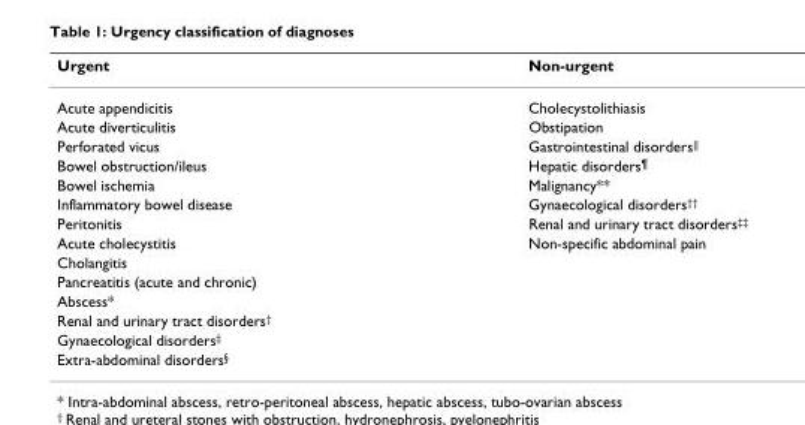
<table><thead><tr><td>Urgent</td><td>Non-urgent</td></tr></thead><tbody><tr><td>Acute appendicitis</td><td>Cholecystolithiasis</td></tr><tr><td>Acute diverticulitis</td><td>Obstipation</td></tr><tr><td>Perforated vicus</td><td>Gastrointestinal disorders||</td></tr><tr><td>Bowel obstruction/ileus</td><td>Hepatic disorders<sup>¶</sup></td></tr><tr><td>Bowel ischemia</td><td>Malignancy**</td></tr><tr><td>Inflammatory bowel disease</td><td>Gynaecological disorders<sup>††</sup></td></tr><tr><td>Peritonitis</td><td>Renal and urinary tract disorders<sup>‡‡</sup></td></tr><tr><td>Acute cholecystitis</td><td>Non-specific abdominal pain</td></tr><tr><td colspan="2">Cholangitis</td></tr><tr><td colspan="2">Pancreatitis (acute and chronic)</td></tr><tr><td colspan="2">Abscess*</td></tr><tr><td colspan="2">Renal and urinary tract disorders<sup>†</sup></td></tr><tr><td colspan="2">Gynaecological disorders<sup>‡</sup></td></tr><tr><td>Extra-abdominal disorders<sup>§</sup></td><td></td></tr></tbody></table>